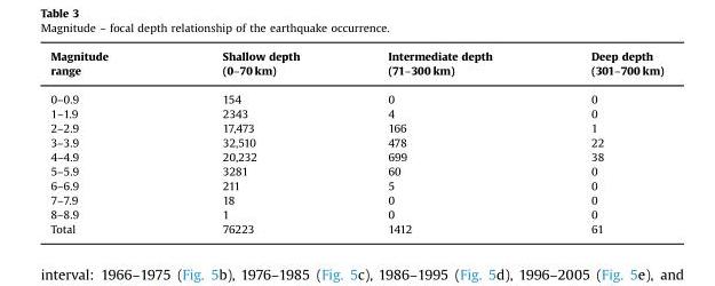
<table><thead><tr><td>Magnitude range</td><td>Shallow depth (0–70 km)</td><td>Intermediate depth (71–300 km)</td><td>Deep depth (301–700 km)</td></tr></thead><tbody><tr><td>0–0.9</td><td>154</td><td>0</td><td>0</td></tr><tr><td>1–1.9</td><td>2343</td><td>4</td><td>0</td></tr><tr><td>2–2.9</td><td>17,473</td><td>166</td><td>1</td></tr><tr><td>3–3.9</td><td>32,510</td><td>478</td><td>22</td></tr><tr><td>4–4.9</td><td>20,232</td><td>699</td><td>38</td></tr><tr><td>5–5.9</td><td>3281</td><td>60</td><td>0</td></tr><tr><td>6–6.9</td><td>211</td><td>5</td><td>0</td></tr><tr><td>7–7.9</td><td>18</td><td>0</td><td>0</td></tr><tr><td>8–8.9</td><td>1</td><td>0</td><td>0</td></tr><tr><td>Total</td><td>76223</td><td>1412</td><td>61</td></tr></tbody></table>